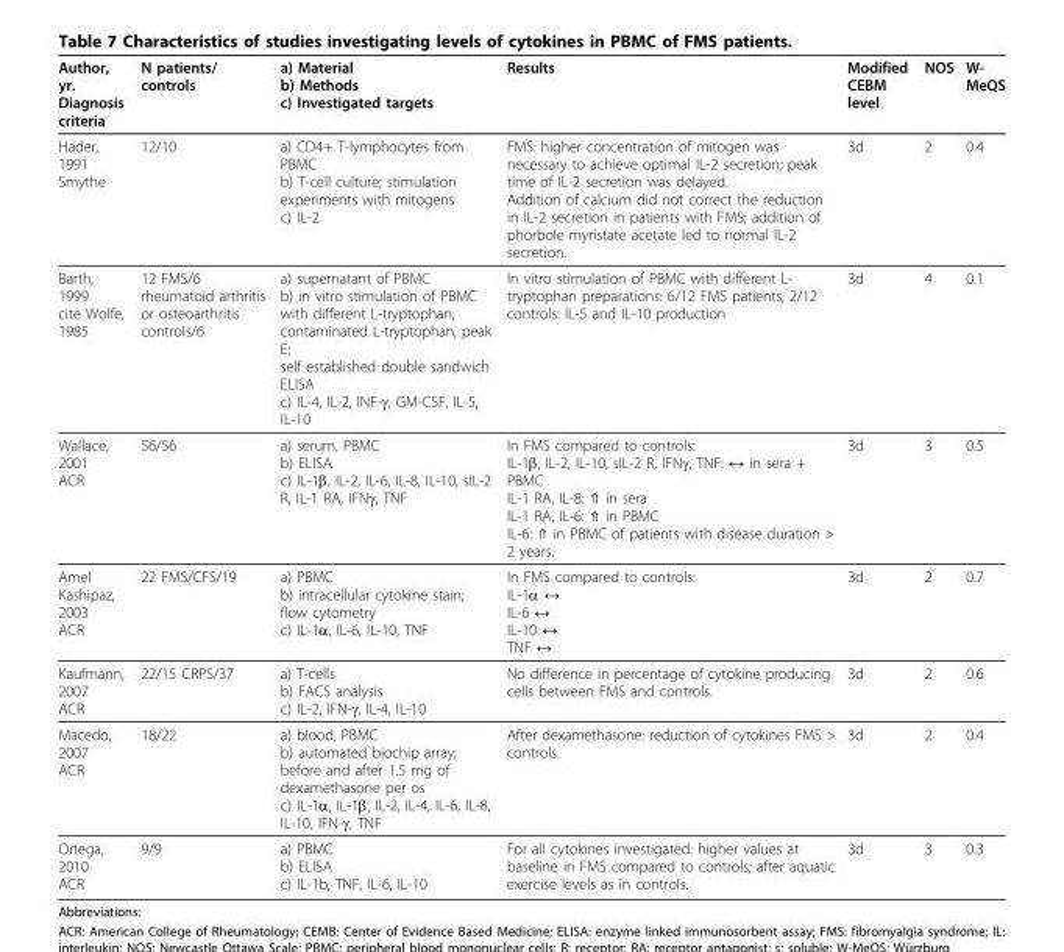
<table><thead><tr><td>Author, yr. Diagnosis criteria</td><td>N patients/ controls</td><td>a) Material b) Methods c) Investigated targets</td><td>Results</td><td>Modified CEBM level</td><td>NOS</td><td>W- MeQS</td></tr></thead><tbody><tr><td>Hader, 1991 Smythe</td><td>12/10</td><td>a) CD4+ T-lymphocytes from PBMC b) T-cell culture; stimulation experiments with mitogens c) IL-2</td><td>FMS: higher concentration of mitogen was necessary to achieve optimal IL-2 secretion; peak time of IL-2 secretion was delayed. Addition of calcium did not correct the reduction in IL-2 secretion in patients with FMS; addition of phorbole myristate acetate led to normal IL-2 secretion.</td><td>3d</td><td>2</td><td>0.4</td></tr><tr><td>Barth, 1999 cite Wolfe, 1985</td><td>12 FMS/6 rheumatoid arthritis or osteoarthritis controls/6</td><td>a) supernatant of PBMC b) in vitro stimulation of PBMC with different L-tryptophan, contaminated L-tryptophan, peak E; self established double sandwich ELISA c) IL-4, IL-2, INF-γ, GM-CSF, IL-5, IL-10</td><td>In vitro stimulation of PBMC with different L- tryptophan preparations: 6/12 FMS patients, 2/12 controls: IL-5 and IL-10 production</td><td>3d</td><td>4</td><td>0.1</td></tr><tr><td>Wallace, 2001 ACR</td><td>56/56</td><td>a) serum, PBMC b) ELISA c) IL-1β, IL-2, IL-6, IL-8, IL-10, sIL-2 R, IL-1 RA, IFNγ, TNF</td><td>In FMS compared to controls: IL-1β, IL-2, IL-10, sIL-2 R, IFNγ, TNF: ↔ in sera + PBMC IL-1 RA, IL-8: ⇑ in sera IL-1 RA, IL-6: ⇑ in PBMC IL-6: ⇑ in PBMC of patients with disease duration &gt; 2 years.</td><td>3d</td><td>3</td><td>0.5</td></tr><tr><td>Amel Kashipaz, 2003 ACR</td><td>22 FMS/CFS/19</td><td>a) PBMC b) intracellular cytokine stain; flow cytometry c) IL-1α, IL-6, IL-10, TNF</td><td>In FMS compared to controls: IL-1α ↔ IL-6 ↔ IL-10 ↔ TNF ↔</td><td>3d</td><td>2</td><td>0.7</td></tr><tr><td>Kaufmann, 2007 ACR</td><td>22/15 CRPS/37</td><td>a) T-cells b) FACS analysis c) IL-2, IFN-γ, IL-4, IL-10</td><td>No difference in percentage of cytokine producing cells between FMS and controls.</td><td>3d</td><td>2</td><td>0.6</td></tr><tr><td>Macedo, 2007 ACR</td><td>18/22</td><td>a) blood, PBMC b) automated biochip array; before and after 1.5 mg of dexamethasone per os c) IL-1α, IL-1β, IL-2, IL-4, IL-6, IL-8, IL-10, IFN-γ, TNF</td><td>After dexamethasone: reduction of cytokines FMS &gt; controls.</td><td>3d</td><td>2</td><td>0.4</td></tr><tr><td>Ortega, 2010 ACR</td><td>9/9</td><td>a) PBMC b) ELISA c) IL-1b, TNF, IL-6, IL-10</td><td>For all cytokines investigated: higher values at baseline in FMS compared to controls; after aquatic exercise levels as in controls.</td><td>3d</td><td>3</td><td>0.3</td></tr></tbody></table>